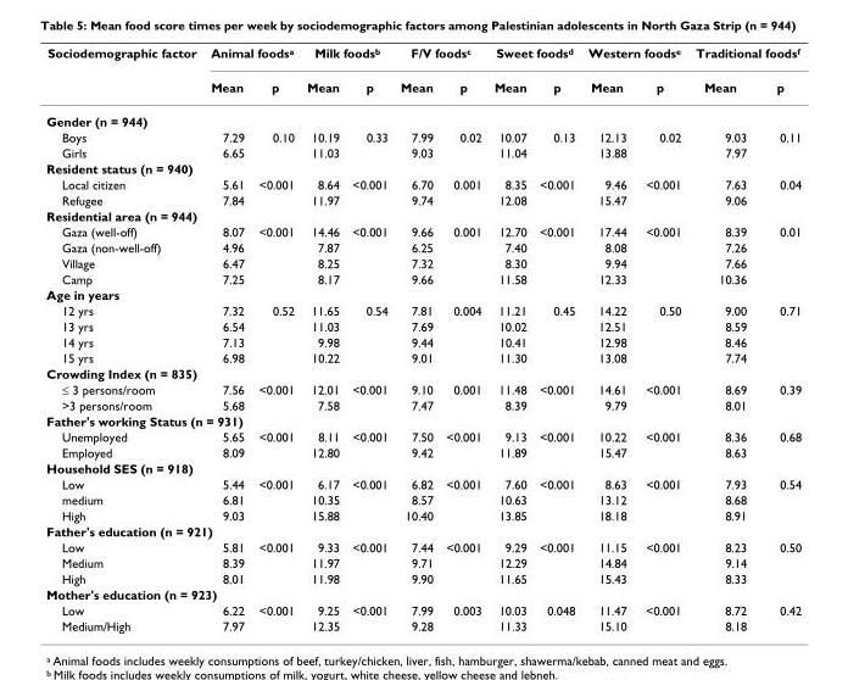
<table><thead><tr><td rowspan="2">Sociodemographic factor</td><td colspan="2">Animal foods<sup>a</sup></td><td colspan="2">Milk foods<sup>b</sup></td><td colspan="2">F/V foods<sup>c</sup></td><td colspan="2">Sweet foods<sup>d</sup></td><td colspan="2">Western foods<sup>e</sup></td><td colspan="2">Traditional foods<sup>f</sup></td></tr><tr><td>Mean</td><td>p</td><td>Mean</td><td>p</td><td>Mean</td><td>p</td><td>Mean</td><td>p</td><td>Mean</td><td>p</td><td>Mean</td><td>p</td></tr></thead><tbody><tr><td colspan="13">Gender (n = 944)</td></tr><tr><td>Boys</td><td>7.29</td><td>0.10</td><td>10.19</td><td>0.33</td><td>7.99</td><td>0.02</td><td>10.07</td><td>0.13</td><td>12.13</td><td>0.02</td><td>9.03</td><td>0.11</td></tr><tr><td>Girls</td><td>6.65</td><td></td><td>11.03</td><td></td><td>9.03</td><td></td><td>11.04</td><td></td><td>13.88</td><td></td><td>7.97</td><td></td></tr><tr><td colspan="13">Resident status (n = 940)</td></tr><tr><td>Local citizen</td><td>5.61</td><td>&lt;0.001</td><td>8.64</td><td>&lt;0.001</td><td>6.70</td><td>0.001</td><td>8.35</td><td>&lt;0.001</td><td>9.46</td><td>&lt;0.001</td><td>7.63</td><td>0.04</td></tr><tr><td>Refugee</td><td>7.84</td><td></td><td>11.97</td><td></td><td>9.74</td><td></td><td>12.08</td><td></td><td>15.47</td><td></td><td>9.06</td><td></td></tr><tr><td colspan="13">Residential area (n = 944)</td></tr><tr><td>Gaza (well-off)</td><td>8.07</td><td>&lt;0.001</td><td>14.46</td><td>&lt;0.001</td><td>9.66</td><td>0.001</td><td>12.70</td><td>&lt;0.001</td><td>17.44</td><td>&lt;0.001</td><td>8.39</td><td>0.01</td></tr><tr><td>Gaza (non-well-off)</td><td>4.96</td><td></td><td>7.87</td><td></td><td>6.25</td><td></td><td>7.40</td><td></td><td>8.08</td><td></td><td>7.26</td><td></td></tr><tr><td>Village</td><td>6.47</td><td></td><td>8.25</td><td></td><td>7.32</td><td></td><td>8.30</td><td></td><td>9.94</td><td></td><td>7.66</td><td></td></tr><tr><td>Camp</td><td>7.25</td><td></td><td>8.17</td><td></td><td>9.66</td><td></td><td>11.58</td><td></td><td>12.33</td><td></td><td>10.36</td><td></td></tr><tr><td colspan="13">Age in years</td></tr><tr><td>12 yrs</td><td>7.32</td><td>0.52</td><td>11.65</td><td>0.54</td><td>7.81</td><td>0.004</td><td>11.21</td><td>0.45</td><td>14.22</td><td>0.50</td><td>9.00</td><td>0.71</td></tr><tr><td>13 yrs</td><td>6.54</td><td></td><td>11.03</td><td></td><td>7.69</td><td></td><td>10.02</td><td></td><td>12.51</td><td></td><td>8.59</td><td></td></tr><tr><td>14 yrs</td><td>7.13</td><td></td><td>9.98</td><td></td><td>9.44</td><td></td><td>10.41</td><td></td><td>12.98</td><td></td><td>8.46</td><td></td></tr><tr><td>15 yrs</td><td>6.98</td><td></td><td>10.22</td><td></td><td>9.01</td><td></td><td>11.30</td><td></td><td>13.08</td><td></td><td>7.74</td><td></td></tr><tr><td colspan="13">Crowding Index (n = 835)</td></tr><tr><td>≤ 3 persons/room</td><td>7.56</td><td>&lt;0.001</td><td>12.01</td><td>&lt;0.001</td><td>9.10</td><td>0.001</td><td>11.48</td><td>&lt;0.001</td><td>14.61</td><td>&lt;0.001</td><td>8.69</td><td>0.39</td></tr><tr><td>&gt;3 persons/room</td><td>5.68</td><td></td><td>7.58</td><td></td><td>7.47</td><td></td><td>8.39</td><td></td><td>9.79</td><td></td><td>8.01</td><td></td></tr><tr><td colspan="13">Father&#x27;s working Status (n = 931)</td></tr><tr><td>Unemployed</td><td>5.65</td><td>&lt;0.001</td><td>8.11</td><td>&lt;0.001</td><td>7.50</td><td>&lt;0.001</td><td>9.13</td><td>&lt;0.001</td><td>10.22</td><td>&lt;0.001</td><td>8.36</td><td>0.68</td></tr><tr><td>Employed</td><td>8.09</td><td></td><td>12.80</td><td></td><td>9.42</td><td></td><td>11.89</td><td></td><td>15.47</td><td></td><td>8.63</td><td></td></tr><tr><td colspan="13">Household SES (n = 918)</td></tr><tr><td>Low</td><td>5.44</td><td>&lt;0.001</td><td>6.17</td><td>&lt;0.001</td><td>6.82</td><td>&lt;0.001</td><td>7.60</td><td>&lt;0.001</td><td>8.63</td><td>&lt;0.001</td><td>7.93</td><td>0.54</td></tr><tr><td>medium</td><td>6.81</td><td></td><td>10.35</td><td></td><td>8.57</td><td></td><td>10.63</td><td></td><td>13.12</td><td></td><td>8.68</td><td></td></tr><tr><td>High</td><td>9.03</td><td></td><td>15.88</td><td></td><td>10.40</td><td></td><td>13.85</td><td></td><td>18.18</td><td></td><td>8.91</td><td></td></tr><tr><td colspan="13">Father&#x27;s education (n = 921)</td></tr><tr><td>Low</td><td>5.81</td><td>&lt;0.001</td><td>9.33</td><td>&lt;0.001</td><td>7.44</td><td>&lt;0.001</td><td>9.29</td><td>&lt;0.001</td><td>11.15</td><td>&lt;0.001</td><td>8.23</td><td>0.50</td></tr><tr><td>Medium</td><td>8.39</td><td></td><td>11.97</td><td></td><td>9.71</td><td></td><td>12.29</td><td></td><td>14.84</td><td></td><td>9.14</td><td></td></tr><tr><td>High</td><td>8.01</td><td></td><td>11.98</td><td></td><td>9.90</td><td></td><td>11.65</td><td></td><td>15.43</td><td></td><td>8.33</td><td></td></tr><tr><td colspan="13">Mother&#x27;s education (n = 923)</td></tr><tr><td>Low</td><td>6.22</td><td>&lt;0.001</td><td>9.25</td><td>&lt;0.001</td><td>7.99</td><td>0.003</td><td>10.03</td><td>0.048</td><td>11.47</td><td>&lt;0.001</td><td>8.72</td><td>0.42</td></tr><tr><td>Medium/High</td><td>7.97</td><td></td><td>12.35</td><td></td><td>9.28</td><td></td><td>11.33</td><td></td><td>15.10</td><td></td><td>8.18</td><td></td></tr></tbody></table>